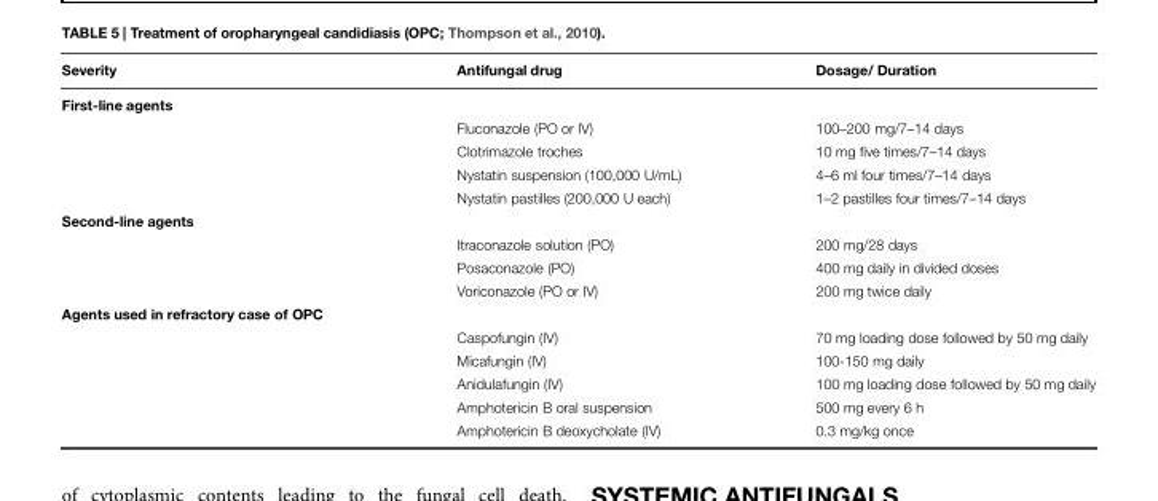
<table><thead><tr><td>Severity</td><td>Antifungal drug</td><td>Dosage/ Duration</td></tr></thead><tbody><tr><td colspan="3">First-line agents</td></tr><tr><td></td><td>Fluconazole (PO or IV)</td><td>100–200 mg/7–14 days</td></tr><tr><td></td><td>Clotrimazole troches</td><td>10 mg five times/7–14 days</td></tr><tr><td></td><td>Nystatin suspension (100,000 U/mL)</td><td>4–6 ml four times/7–14 days</td></tr><tr><td></td><td>Nystatin pastilles (200,000 U each)</td><td>1–2 pastilles four times/7–14 days</td></tr><tr><td colspan="3">Second-line agents</td></tr><tr><td></td><td>Itraconazole solution (PO)</td><td>200 mg/28 days</td></tr><tr><td></td><td>Posaconazole (PO)</td><td>400 mg daily in divided doses</td></tr><tr><td></td><td>Voriconazole (PO or IV)</td><td>200 mg twice daily</td></tr><tr><td colspan="3">Agents used in refractory case of OPC</td></tr><tr><td></td><td>Caspofungin (IV)</td><td>70 mg loading dose followed by 50 mg daily</td></tr><tr><td></td><td>Micafungin (IV)</td><td>100-150 mg daily</td></tr><tr><td></td><td>Anidulafungin (IV)</td><td>100 mg loading dose followed by 50 mg daily</td></tr><tr><td></td><td>Amphotericin B oral suspension</td><td>500 mg every 6 h</td></tr><tr><td></td><td>Amphotericin B deoxycholate (IV)</td><td>0.3 mg/kg once</td></tr></tbody></table>